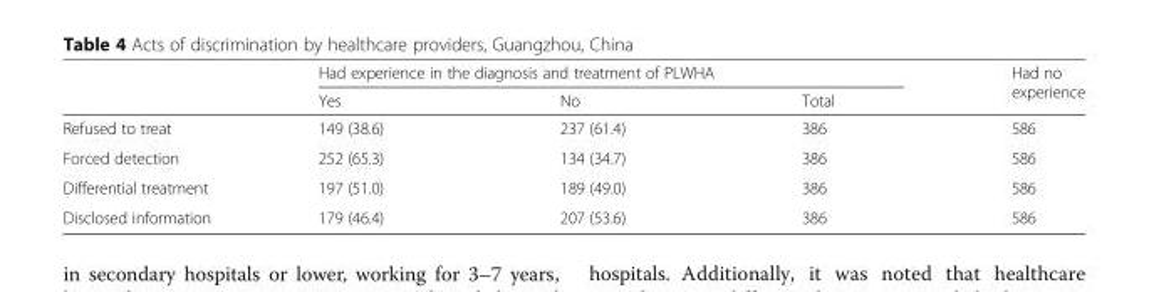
<table><thead><tr><td rowspan="2"></td><td colspan="3">Had experience in the diagnosis and treatment of PLWHA</td><td rowspan="2">Had no experience</td></tr><tr><td>Yes</td><td>No</td><td>Total</td></tr></thead><tbody><tr><td>Refused to treat</td><td>149 (38.6)</td><td>237 (61.4)</td><td>386</td><td>586</td></tr><tr><td>Forced detection</td><td>252 (65.3)</td><td>134 (34.7)</td><td>386</td><td>586</td></tr><tr><td>Differential treatment</td><td>197 (51.0)</td><td>189 (49.0)</td><td>386</td><td>586</td></tr><tr><td>Disclosed information</td><td>179 (46.4)</td><td>207 (53.6)</td><td>386</td><td>586</td></tr></tbody></table>